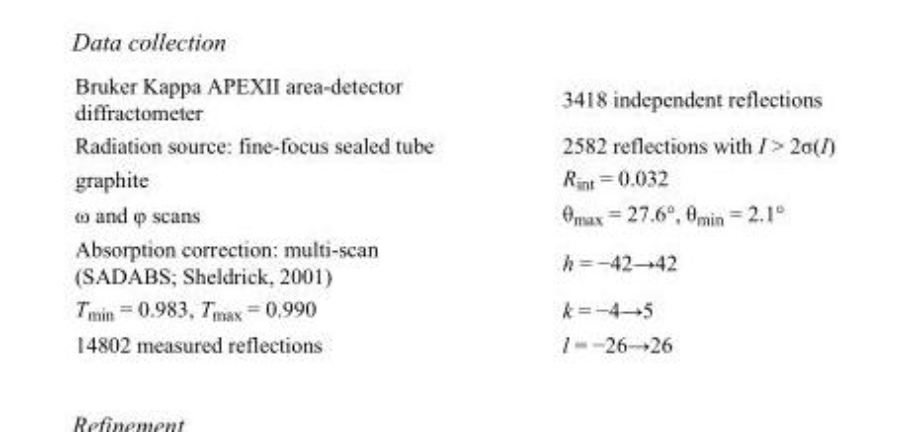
<table><tbody><tr><td>Bruker Kappa APEXII area-detector diffractometer</td><td>3418 independent reflections</td></tr><tr><td>Radiation source: fine-focus sealed tube</td><td>2582 reflections with I &gt; 2σ(I)</td></tr><tr><td>graphite</td><td>R<sub>int</sub> = 0.032</td></tr><tr><td>ω and φ scans</td><td>θ<sub>max</sub> = 27.6°, θ<sub>min</sub> = 2.1°</td></tr><tr><td>Absorption correction: multi-scan (SADABS; Sheldrick, 2001)</td><td>h = −42→42</td></tr><tr><td>T<sub>min</sub> = 0.983, T<sub>max</sub> = 0.990</td><td>k = −4→5</td></tr><tr><td>14802 measured reflections</td><td>l = −26→26</td></tr></tbody></table>